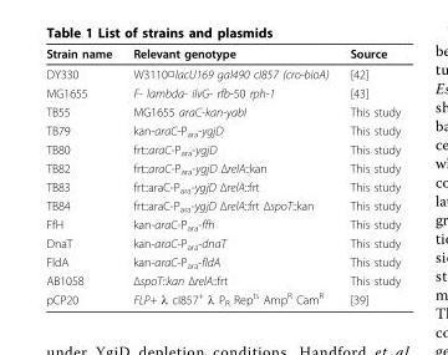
<table><thead><tr><td>Strain name</td><td>Relevant genotype</td><td>Source</td></tr></thead><tbody><tr><td>DY330</td><td>W3110□lacU169 gal490 cI857 (cro-bioA)</td><td>[42]</td></tr><tr><td>MG1655</td><td>F- lambda- ilvG- rfb-50 rph-1</td><td>[43]</td></tr><tr><td>TB55</td><td>MG1655 araC-kan-yabI</td><td>This study</td></tr><tr><td>TB79</td><td>kan-araC-P<sub>ara</sub>-ygjD</td><td>This study</td></tr><tr><td>TB80</td><td>frt::araC-P<sub>ara</sub>-ygjD</td><td>This study</td></tr><tr><td>TB82</td><td>frt::araC-P<sub>ara</sub>-ygjD ΔrelA::kan</td><td>This study</td></tr><tr><td>TB83</td><td>frt::araC-P<sub>ara</sub>-ygjD ΔrelA::frt</td><td>This study</td></tr><tr><td>TB84</td><td>frt::araC-P<sub>ara</sub>-ygjD ΔrelA::frt ΔspoT::kan</td><td>This study</td></tr><tr><td>FfH</td><td>kan-araC-P<sub>ara</sub>-ffh</td><td>This study</td></tr><tr><td>DnaT</td><td>kan-araC-P<sub>ara</sub>-dnaT</td><td>This study</td></tr><tr><td>FldA</td><td>kan-araC-P<sub>ara</sub>-fldA</td><td>This study</td></tr><tr><td>AB1058</td><td>ΔspoT::kan ΔrelA::frt</td><td>This study</td></tr><tr><td>pCP20</td><td>FLP+ λ cI857<sup>+</sup> λ P<sub>R</sub> Rep<sup>ts</sup> Amp<sup>R</sup> Cam<sup>R</sup></td><td>[39]</td></tr></tbody></table>